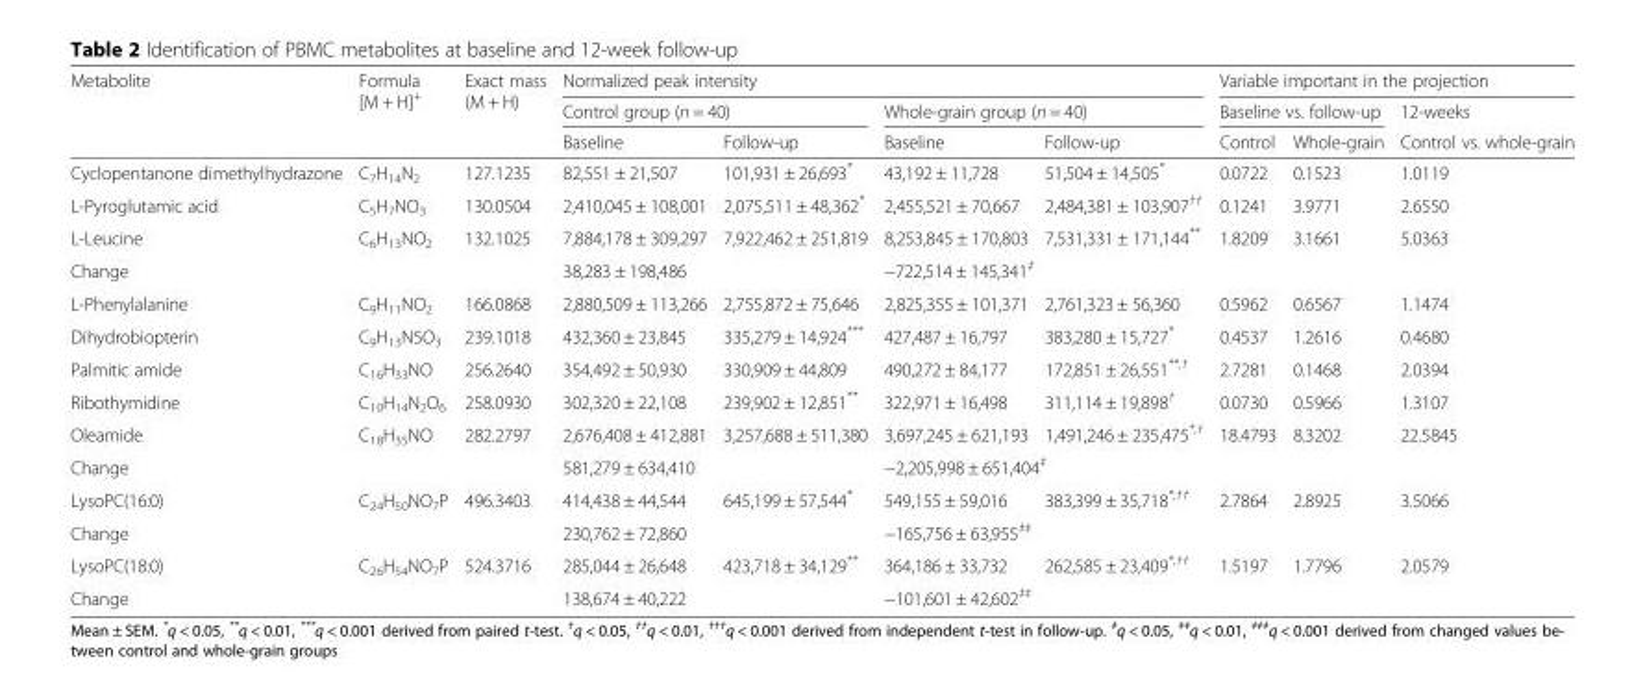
<table><thead><tr><td rowspan="3">Metabolite</td><td rowspan="3">Formula [M + H]<sup>+</sup></td><td rowspan="3">Exact mass (M + H)</td><td colspan="4">Normalized peak intensity</td><td colspan="3">Variable important in the projection</td></tr><tr><td colspan="2">Control group (n = 40)</td><td colspan="2">Whole-grain group (n = 40)</td><td colspan="2">Baseline vs. follow-up</td><td rowspan="2">12-weeks Control vs. whole-grain</td></tr><tr><td>Baseline</td><td>Follow-up</td><td>Baseline</td><td>Follow-up</td><td>Control</td><td>Whole-grain</td></tr></thead><tbody><tr><td>Cyclopentanone dimethylhydrazone</td><td>C<sub>7</sub>H<sub>14</sub>N<sub>2</sub></td><td>127.1235</td><td>82,551 ± 21,507</td><td>101,931 ± 26,693*</td><td>43,192 ± 11,728</td><td>51,504 ± 14,505*</td><td>0.0722</td><td>0.1523</td><td>1.0119</td></tr><tr><td>L-Pyroglutamic acid</td><td>C<sub>5</sub>H<sub>7</sub>NO<sub>3</sub></td><td>130.0504</td><td>2,410,045 ± 108,001</td><td>2,075,511 ± 48,362*</td><td>2,455,521 ± 70,667</td><td>2,484,381 ± 103,907<sup>††</sup></td><td>0.1241</td><td>3.9771</td><td>2.6550</td></tr><tr><td>L-Leucine</td><td>C<sub>6</sub>H<sub>13</sub>NO<sub>2</sub></td><td>132.1025</td><td>7,884,178 ± 309,297</td><td>7,922,462 ± 251,819</td><td>8,253,845 ± 170,803</td><td>7,531,331 ± 171,144**</td><td>1.8209</td><td>3.1661</td><td>5.0363</td></tr><tr><td>Change</td><td></td><td></td><td colspan="2">38,283 ± 198,486</td><td colspan="2">−722,514 ± 145,341<sup>‡</sup></td><td></td><td></td><td></td></tr><tr><td>L-Phenylalanine</td><td>C<sub>9</sub>H<sub>11</sub>NO<sub>2</sub></td><td>166.0868</td><td>2,880,509 ± 113,266</td><td>2,755,872 ± 75,646</td><td>2,825,355 ± 101,371</td><td>2,761,323 ± 56,360</td><td>0.5962</td><td>0.6567</td><td>1.1474</td></tr><tr><td>Dihydrobiopterin</td><td>C<sub>9</sub>H<sub>13</sub>N5O<sub>3</sub></td><td>239.1018</td><td>432,360 ± 23,845</td><td>335,279 ± 14,924***</td><td>427,487 ± 16,797</td><td>383,280 ± 15,727*</td><td>0.4537</td><td>1.2616</td><td>0.4680</td></tr><tr><td>Palmitic amide</td><td>C<sub>16</sub>H<sub>33</sub>NO</td><td>256.2640</td><td>354,492 ± 50,930</td><td>330,909 ± 44,809</td><td>490,272 ± 84,177</td><td>172,851 ± 26,551<sup>**,†</sup></td><td>2.7281</td><td>0.1468</td><td>2.0394</td></tr><tr><td>Ribothymidine</td><td>C<sub>10</sub>H<sub>14</sub>N<sub>2</sub>O<sub>6</sub></td><td>258.0930</td><td>302,320 ± 22,108</td><td>239,902 ± 12,851**</td><td>322,971 ± 16,498</td><td>311,114 ± 19,898<sup>†</sup></td><td>0.0730</td><td>0.5966</td><td>1.3107</td></tr><tr><td>Oleamide</td><td>C<sub>18</sub>H<sub>35</sub>NO</td><td>282.2797</td><td>2,676,408 ± 412,881</td><td>3,257,688 ± 511,380</td><td>3,697,245 ± 621,193</td><td>1,491,246 ± 235,475<sup>*,†</sup></td><td>18.4793</td><td>8.3202</td><td>22.5845</td></tr><tr><td>Change</td><td></td><td></td><td colspan="2">581,279 ± 634,410</td><td colspan="2">−2,205,998 ± 651,404<sup>‡</sup></td><td></td><td></td><td></td></tr><tr><td>LysoPC(16:0)</td><td>C<sub>24</sub>H<sub>50</sub>NO<sub>7</sub>P</td><td>496.3403</td><td>414,438 ± 44,544</td><td>645,199 ± 57,544*</td><td>549,155 ± 59,016</td><td>383,399 ± 35,718<sup>*,††</sup></td><td>2.7864</td><td>2.8925</td><td>3.5066</td></tr><tr><td>Change</td><td></td><td></td><td colspan="2">230,762 ± 72,860</td><td colspan="2">−165,756 ± 63,955<sup>‡‡</sup></td><td></td><td></td><td></td></tr><tr><td>LysoPC(18:0)</td><td>C<sub>26</sub>H<sub>54</sub>NO<sub>7</sub>P</td><td>524.3716</td><td>285,044 ± 26,648</td><td>423,718 ± 34,129**</td><td>364,186 ± 33,732</td><td>262,585 ± 23,409<sup>*,††</sup></td><td>1.5197</td><td>1.7796</td><td>2.0579</td></tr><tr><td>Change</td><td></td><td></td><td colspan="2">138,674 ± 40,222</td><td colspan="2">−101,601 ± 42,602<sup>‡‡</sup></td><td></td><td></td><td></td></tr></tbody></table>